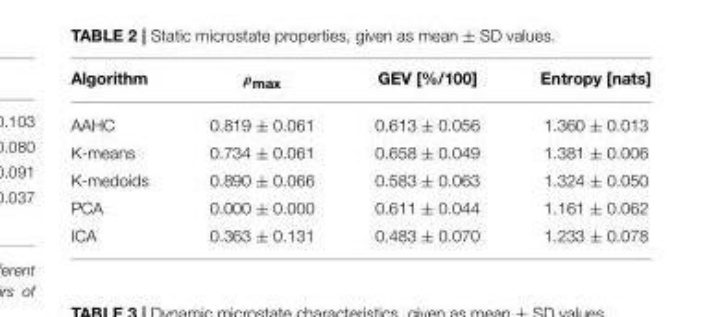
<table><thead><tr><td>Algorithm</td><td>ρ<sub>max</sub></td><td>GEV [%/100]</td><td>Entropy [nats]</td></tr></thead><tbody><tr><td>AAHC</td><td>0.819 ± 0.061</td><td>0.613 ± 0.056</td><td>1.360 ± 0.013</td></tr><tr><td>K-means</td><td>0.734 ± 0.061</td><td>0.658 ± 0.049</td><td>1.381 ± 0.006</td></tr><tr><td>K-medoids</td><td>0.890 ± 0.066</td><td>0.583 ± 0.063</td><td>1.324 ± 0.050</td></tr><tr><td>PCA</td><td>0.000 ± 0.000</td><td>0.611 ± 0.044</td><td>1.161 ± 0.062</td></tr><tr><td>ICA</td><td>0.363 ± 0.131</td><td>0.483 ± 0.070</td><td>1.233 ± 0.078</td></tr></tbody></table>